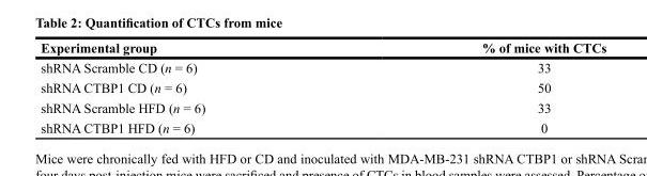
<table><thead><tr><td>Experimental group</td><td>% of mice with CTCs</td></tr></thead><tbody><tr><td>shRNA Scramble CD (n = 6)</td><td>33</td></tr><tr><td>shRNA CTBP1 CD (n = 6)</td><td>50</td></tr><tr><td>shRNA Scramble HFD (n = 6)</td><td>33</td></tr><tr><td>shRNA CTBP1 HFD (n = 6)</td><td>0</td></tr></tbody></table>